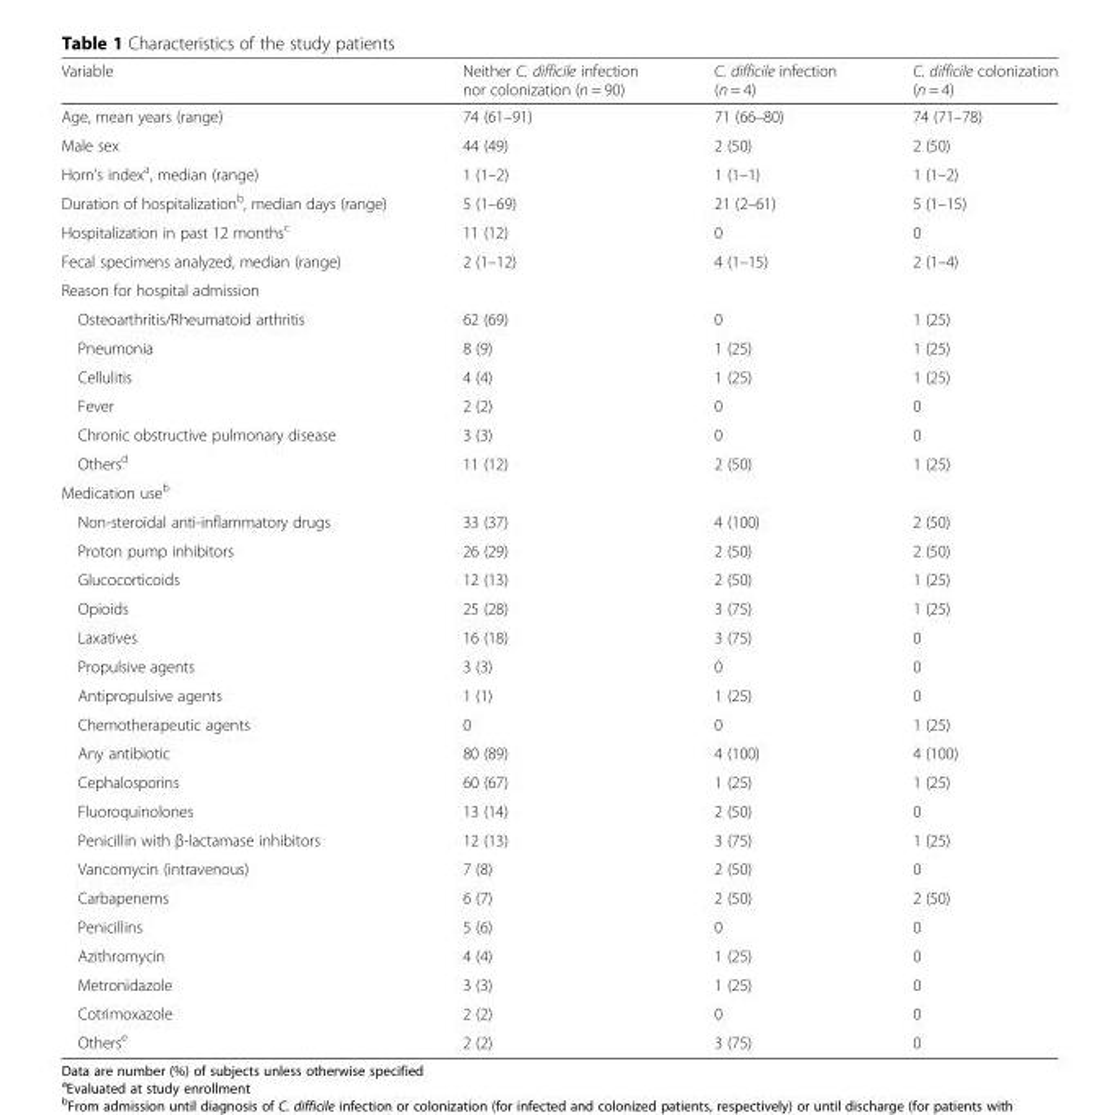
<table><thead><tr><td>Variable</td><td>Neither C. difficile infection nor colonization (n = 90)</td><td>C. difficile infection (n = 4)</td><td>C. difficile colonization (n = 4)</td></tr></thead><tbody><tr><td>Age, mean years (range)</td><td>74 (61–91)</td><td>71 (66–80)</td><td>74 (71–78)</td></tr><tr><td>Male sex</td><td>44 (49)</td><td>2 (50)</td><td>2 (50)</td></tr><tr><td>Horn’s index<sup>a</sup>, median (range)</td><td>1 (1–2)</td><td>1 (1–1)</td><td>1 (1–2)</td></tr><tr><td>Duration of hospitalization<sup>b</sup>, median days (range)</td><td>5 (1–69)</td><td>21 (2–61)</td><td>5 (1–15)</td></tr><tr><td>Hospitalization in past 12 months<sup>c</sup></td><td>11 (12)</td><td>0</td><td>0</td></tr><tr><td>Fecal specimens analyzed, median (range)</td><td>2 (1–12)</td><td>4 (1–15)</td><td>2 (1–4)</td></tr><tr><td colspan="4">Reason for hospital admission</td></tr><tr><td>Osteoarthritis/Rheumatoid arthritis</td><td>62 (69)</td><td>0</td><td>1 (25)</td></tr><tr><td>Pneumonia</td><td>8 (9)</td><td>1 (25)</td><td>1 (25)</td></tr><tr><td>Cellulitis</td><td>4 (4)</td><td>1 (25)</td><td>1 (25)</td></tr><tr><td>Fever</td><td>2 (2)</td><td>0</td><td>0</td></tr><tr><td>Chronic obstructive pulmonary disease</td><td>3 (3)</td><td>0</td><td>0</td></tr><tr><td>Others<sup>d</sup></td><td>11 (12)</td><td>2 (50)</td><td>1 (25)</td></tr><tr><td colspan="4">Medication use<sup>b</sup></td></tr><tr><td>Non-steroidal anti-inflammatory drugs</td><td>33 (37)</td><td>4 (100)</td><td>2 (50)</td></tr><tr><td>Proton pump inhibitors</td><td>26 (29)</td><td>2 (50)</td><td>2 (50)</td></tr><tr><td>Glucocorticoids</td><td>12 (13)</td><td>2 (50)</td><td>1 (25)</td></tr><tr><td>Opioids</td><td>25 (28)</td><td>3 (75)</td><td>1 (25)</td></tr><tr><td>Laxatives</td><td>16 (18)</td><td>3 (75)</td><td>0</td></tr><tr><td>Propulsive agents</td><td>3 (3)</td><td>0</td><td>0</td></tr><tr><td>Antipropulsive agents</td><td>1 (1)</td><td>1 (25)</td><td>0</td></tr><tr><td>Chemotherapeutic agents</td><td>0</td><td>0</td><td>1 (25)</td></tr><tr><td>Any antibiotic</td><td>80 (89)</td><td>4 (100)</td><td>4 (100)</td></tr><tr><td>Cephalosporins</td><td>60 (67)</td><td>1 (25)</td><td>1 (25)</td></tr><tr><td>Fluoroquinolones</td><td>13 (14)</td><td>2 (50)</td><td>0</td></tr><tr><td>Penicillin with β-lactamase inhibitors</td><td>12 (13)</td><td>3 (75)</td><td>1 (25)</td></tr><tr><td>Vancomycin (intravenous)</td><td>7 (8)</td><td>2 (50)</td><td>0</td></tr><tr><td>Carbapenems</td><td>6 (7)</td><td>2 (50)</td><td>2 (50)</td></tr><tr><td>Penicillins</td><td>5 (6)</td><td>0</td><td>0</td></tr><tr><td>Azithromycin</td><td>4 (4)</td><td>1 (25)</td><td>0</td></tr><tr><td>Metronidazole</td><td>3 (3)</td><td>1 (25)</td><td>0</td></tr><tr><td>Cotrimoxazole</td><td>2 (2)</td><td>0</td><td>0</td></tr><tr><td>Others<sup>e</sup></td><td>2 (2)</td><td>3 (75)</td><td>0</td></tr></tbody></table>